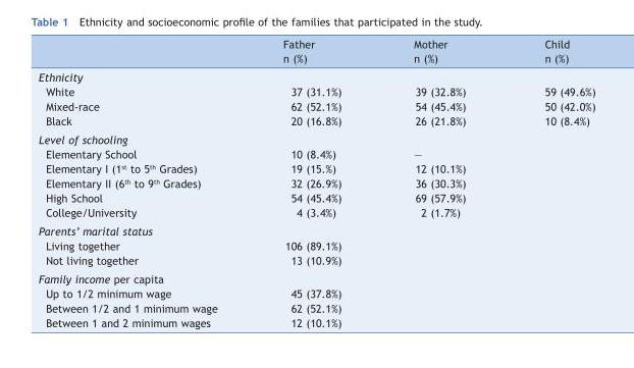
<table><thead><tr><td></td><td>Father n (%)</td><td>Mother n (%)</td><td>Child n (%)</td></tr></thead><tbody><tr><td colspan="4">Ethnicity</td></tr><tr><td>White</td><td>37 (31.1%)</td><td>39 (32.8%)</td><td>59 (49.6%)</td></tr><tr><td>Mixed-race</td><td>62 (52.1%)</td><td>54 (45.4%)</td><td>50 (42.0%)</td></tr><tr><td>Black</td><td>20 (16.8%)</td><td>26 (21.8%)</td><td>10 (8.4%)</td></tr><tr><td colspan="4">Level of schooling</td></tr><tr><td>Elementary School</td><td>10 (8.4%)</td><td>—</td><td></td></tr><tr><td>Elementary I (1<sup>st</sup> to 5<sup>th</sup> Grades)</td><td>19 (15.%)</td><td>12 (10.1%)</td><td></td></tr><tr><td>Elementary II (6<sup>th</sup> to 9<sup>th</sup> Grades)</td><td>32 (26.9%)</td><td>36 (30.3%)</td><td></td></tr><tr><td>High School</td><td>54 (45.4%)</td><td>69 (57.9%)</td><td></td></tr><tr><td>College/University</td><td>4 (3.4%)</td><td>2 (1.7%)</td><td></td></tr><tr><td colspan="4">Parents’ marital status</td></tr><tr><td>Living together</td><td colspan="3">106 (89.1%)</td></tr><tr><td>Not living together</td><td colspan="3">13 (10.9%)</td></tr><tr><td colspan="4">Family income per capita</td></tr><tr><td>Up to 1/2 minimum wage</td><td colspan="3">45 (37.8%)</td></tr><tr><td>Between 1/2 and 1 minimum wage</td><td colspan="3">62 (52.1%)</td></tr><tr><td>Between 1 and 2 minimum wages</td><td colspan="3">12 (10.1%)</td></tr></tbody></table>